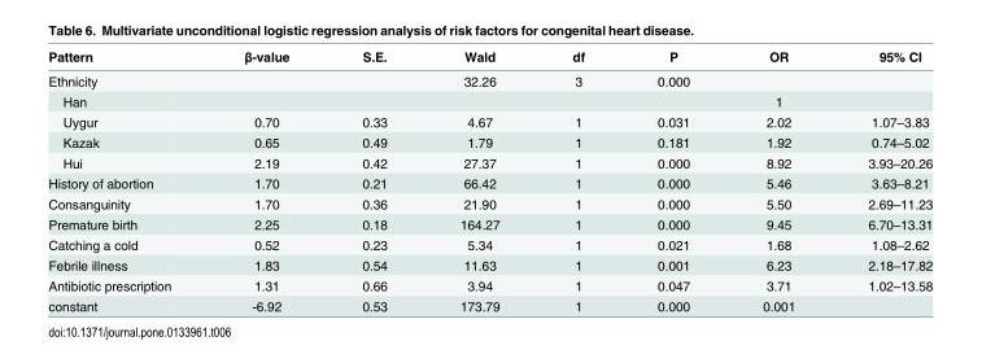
<table><thead><tr><td>Pattern</td><td>β-value</td><td>S.E.</td><td>Wald</td><td>df</td><td>P</td><td>OR</td><td>95% CI</td></tr></thead><tbody><tr><td>Ethnicity</td><td></td><td></td><td>32.26</td><td>3</td><td>0.000</td><td></td><td></td></tr><tr><td>Han</td><td></td><td></td><td></td><td></td><td></td><td>1</td><td></td></tr><tr><td>Uygur</td><td>0.70</td><td>0.33</td><td>4.67</td><td>1</td><td>0.031</td><td>2.02</td><td>1.07–3.83</td></tr><tr><td>Kazak</td><td>0.65</td><td>0.49</td><td>1.79</td><td>1</td><td>0.181</td><td>1.92</td><td>0.74–5.02</td></tr><tr><td>Hui</td><td>2.19</td><td>0.42</td><td>27.37</td><td>1</td><td>0.000</td><td>8.92</td><td>3.93–20.26</td></tr><tr><td>History of abortion</td><td>1.70</td><td>0.21</td><td>66.42</td><td>1</td><td>0.000</td><td>5.46</td><td>3.63–8.21</td></tr><tr><td>Consanguinity</td><td>1.70</td><td>0.36</td><td>21.90</td><td>1</td><td>0.000</td><td>5.50</td><td>2.69–11.23</td></tr><tr><td>Premature birth</td><td>2.25</td><td>0.18</td><td>164.27</td><td>1</td><td>0.000</td><td>9.45</td><td>6.70–13.31</td></tr><tr><td>Catching a cold</td><td>0.52</td><td>0.23</td><td>5.34</td><td>1</td><td>0.021</td><td>1.68</td><td>1.08–2.62</td></tr><tr><td>Febrile illness</td><td>1.83</td><td>0.54</td><td>11.63</td><td>1</td><td>0.001</td><td>6.23</td><td>2.18–17.82</td></tr><tr><td>Antibiotic prescription</td><td>1.31</td><td>0.66</td><td>3.94</td><td>1</td><td>0.047</td><td>3.71</td><td>1.02–13.58</td></tr><tr><td>constant</td><td>-6.92</td><td>0.53</td><td>173.79</td><td>1</td><td>0.000</td><td>0.001</td><td></td></tr></tbody></table>